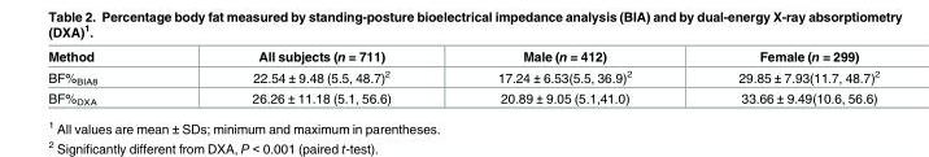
<table><thead><tr><td>Method</td><td>All subjects (n = 711)</td><td>Male (n = 412)</td><td>Female (n = 299)</td></tr></thead><tbody><tr><td>BF%<sub>BIA8</sub></td><td>22.54 ± 9.48 (5.5, 48.7)<sup>2</sup></td><td>17.24 ± 6.53(5.5, 36.9)<sup>2</sup></td><td>29.85 ± 7.93(11.7, 48.7)<sup>2</sup></td></tr><tr><td>BF%<sub>DXA</sub></td><td>26.26 ± 11.18 (5.1, 56.6)</td><td>20.89 ± 9.05 (5.1,41.0)</td><td>33.66 ± 9.49(10.6, 56.6)</td></tr></tbody></table>